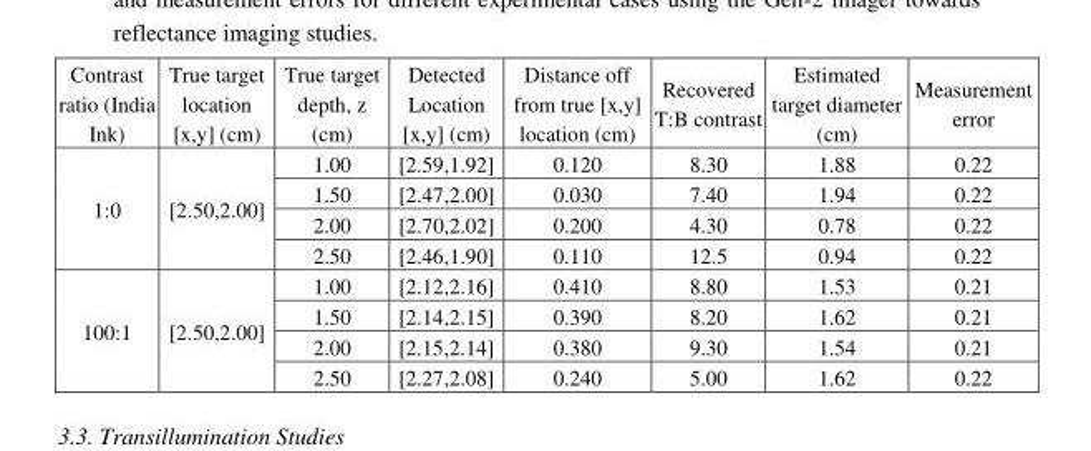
<table><thead><tr><td>Contrast ratio (India Ink)</td><td>True target location [x,y] (cm)</td><td>True target depth, z (cm)</td><td>Detected Location [x,y] (cm)</td><td>Distance off from true [x,y] location (cm)</td><td>Recovered T:B contrast</td><td>Estimated target diameter (cm)</td><td>Measurement error</td></tr></thead><tbody><tr><td rowspan="4">1:0</td><td rowspan="4">[2.50,2.00]</td><td>1.00</td><td>[2.59,1.92]</td><td>0.120</td><td>8.30</td><td>1.88</td><td>0.22</td></tr><tr><td>1.50</td><td>[2.47,2.00]</td><td>0.030</td><td>7.40</td><td>1.94</td><td>0.22</td></tr><tr><td>2.00</td><td>[2.70,2.02]</td><td>0.200</td><td>4.30</td><td>0.78</td><td>0.22</td></tr><tr><td>2.50</td><td>[2.46,1.90]</td><td>0.110</td><td>12.5</td><td>0.94</td><td>0.22</td></tr><tr><td rowspan="4">100:1</td><td rowspan="4">[2.50,2.00]</td><td>1.00</td><td>[2.12,2.16]</td><td>0.410</td><td>8.80</td><td>1.53</td><td>0.21</td></tr><tr><td>1.50</td><td>[2.14,2.15]</td><td>0.390</td><td>8.20</td><td>1.62</td><td>0.21</td></tr><tr><td>2.00</td><td>[2.15,2.14]</td><td>0.380</td><td>9.30</td><td>1.54</td><td>0.21</td></tr><tr><td>2.50</td><td>[2.27,2.08]</td><td>0.240</td><td>5.00</td><td>1.62</td><td>0.22</td></tr></tbody></table>